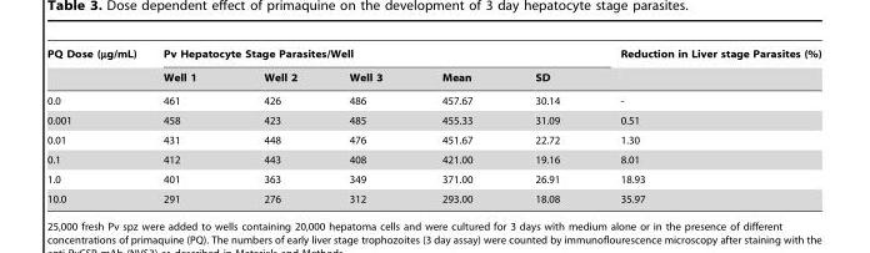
<table><thead><tr><td rowspan="2">PQ Dose (µg/mL)</td><td colspan="5">Pv Hepatocyte Stage Parasites/Well</td><td rowspan="2">Reduction in Liver stage Parasites (%)</td></tr><tr><td>Well 1</td><td>Well 2</td><td>Well 3</td><td>Mean</td><td>SD</td></tr></thead><tbody><tr><td>0.0</td><td>461</td><td>426</td><td>486</td><td>457.67</td><td>30.14</td><td>-</td></tr><tr><td>0.001</td><td>458</td><td>423</td><td>485</td><td>455.33</td><td>31.09</td><td>0.51</td></tr><tr><td>0.01</td><td>431</td><td>448</td><td>476</td><td>451.67</td><td>22.72</td><td>1.30</td></tr><tr><td>0.1</td><td>412</td><td>443</td><td>408</td><td>421.00</td><td>19.16</td><td>8.01</td></tr><tr><td>1.0</td><td>401</td><td>363</td><td>349</td><td>371.00</td><td>26.91</td><td>18.93</td></tr><tr><td>10.0</td><td>291</td><td>276</td><td>312</td><td>293.00</td><td>18.08</td><td>35.97</td></tr></tbody></table>